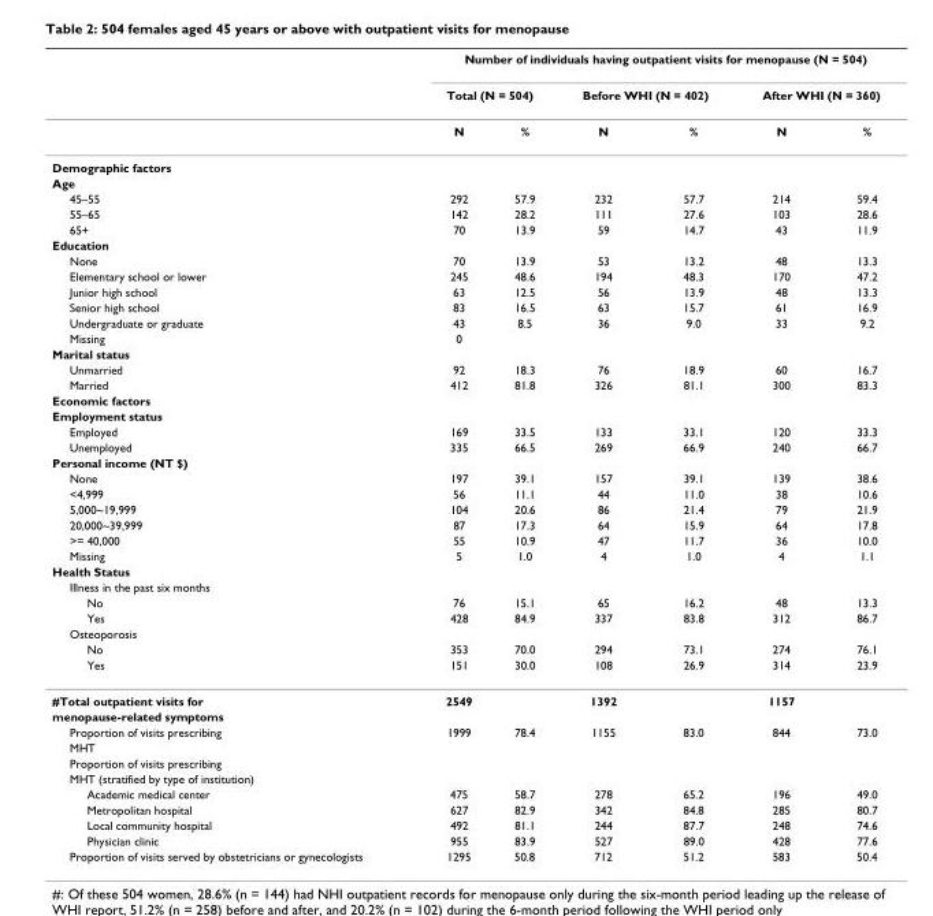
<table><thead><tr><td rowspan="3"></td><td colspan="6">Number of individuals having outpatient visits for menopause (N = 504)</td></tr><tr><td colspan="2">Total (N = 504)</td><td colspan="2">Before WHI (N = 402)</td><td colspan="2">After WHI (N = 360)</td></tr><tr><td>N</td><td>%</td><td>N</td><td>%</td><td>N</td><td>%</td></tr></thead><tbody><tr><td colspan="7">Demographic factors</td></tr><tr><td colspan="7">Age</td></tr><tr><td>45–55</td><td>292</td><td>57.9</td><td>232</td><td>57.7</td><td>214</td><td>59.4</td></tr><tr><td>55–65</td><td>142</td><td>28.2</td><td>111</td><td>27.6</td><td>103</td><td>28.6</td></tr><tr><td>65+</td><td>70</td><td>13.9</td><td>59</td><td>14.7</td><td>43</td><td>11.9</td></tr><tr><td colspan="7">Education</td></tr><tr><td>None</td><td>70</td><td>13.9</td><td>53</td><td>13.2</td><td>48</td><td>13.3</td></tr><tr><td>Elementary school or lower</td><td>245</td><td>48.6</td><td>194</td><td>48.3</td><td>170</td><td>47.2</td></tr><tr><td>Junior high school</td><td>63</td><td>12.5</td><td>56</td><td>13.9</td><td>48</td><td>13.3</td></tr><tr><td>Senior high school</td><td>83</td><td>16.5</td><td>63</td><td>15.7</td><td>61</td><td>16.9</td></tr><tr><td>Undergraduate or graduate</td><td>43</td><td>8.5</td><td>36</td><td>9.0</td><td>33</td><td>9.2</td></tr><tr><td>Missing</td><td>0</td><td></td><td></td><td></td><td></td><td></td></tr><tr><td colspan="7">Marital status</td></tr><tr><td>Unmarried</td><td>92</td><td>18.3</td><td>76</td><td>18.9</td><td>60</td><td>16.7</td></tr><tr><td>Married</td><td>412</td><td>81.8</td><td>326</td><td>81.1</td><td>300</td><td>83.3</td></tr><tr><td colspan="7">Economic factors</td></tr><tr><td colspan="7">Employment status</td></tr><tr><td>Employed</td><td>169</td><td>33.5</td><td>133</td><td>33.1</td><td>120</td><td>33.3</td></tr><tr><td>Unemployed</td><td>335</td><td>66.5</td><td>269</td><td>66.9</td><td>240</td><td>66.7</td></tr><tr><td colspan="7">Personal income (NT $)</td></tr><tr><td>None</td><td>197</td><td>39.1</td><td>157</td><td>39.1</td><td>139</td><td>38.6</td></tr><tr><td>&lt;4,999</td><td>56</td><td>11.1</td><td>44</td><td>11.0</td><td>38</td><td>10.6</td></tr><tr><td>5,000~19,999</td><td>104</td><td>20.6</td><td>86</td><td>21.4</td><td>79</td><td>21.9</td></tr><tr><td>20,000~39,999</td><td>87</td><td>17.3</td><td>64</td><td>15.9</td><td>64</td><td>17.8</td></tr><tr><td>&gt;= 40,000</td><td>55</td><td>10.9</td><td>47</td><td>11.7</td><td>36</td><td>10.0</td></tr><tr><td>Missing</td><td>5</td><td>1.0</td><td>4</td><td>1.0</td><td>4</td><td>1.1</td></tr><tr><td colspan="7">Health Status</td></tr><tr><td colspan="7">Illness in the past six months</td></tr><tr><td>No</td><td>76</td><td>15.1</td><td>65</td><td>16.2</td><td>48</td><td>13.3</td></tr><tr><td>Yes</td><td>428</td><td>84.9</td><td>337</td><td>83.8</td><td>312</td><td>86.7</td></tr><tr><td colspan="7">Osteoporosis</td></tr><tr><td>No</td><td>353</td><td>70.0</td><td>294</td><td>73.1</td><td>274</td><td>76.1</td></tr><tr><td>Yes</td><td>151</td><td>30.0</td><td>108</td><td>26.9</td><td>314</td><td>23.9</td></tr><tr><td>#Total outpatient visits for</td><td>2549</td><td></td><td>1392</td><td></td><td>1157</td><td></td></tr><tr><td colspan="7">menopause-related symptoms</td></tr><tr><td>Proportion of visits prescribing</td><td>1999</td><td>78.4</td><td>1155</td><td>83.0</td><td>844</td><td>73.0</td></tr><tr><td colspan="7">MHT</td></tr><tr><td colspan="7">Proportion of visits prescribing</td></tr><tr><td colspan="7">MHT (stratified by type of institution)</td></tr><tr><td>Academic medical center</td><td>475</td><td>58.7</td><td>278</td><td>65.2</td><td>196</td><td>49.0</td></tr><tr><td>Metropolitan hospital</td><td>627</td><td>82.9</td><td>342</td><td>84.8</td><td>285</td><td>80.7</td></tr><tr><td>Local community hospital</td><td>492</td><td>81.1</td><td>244</td><td>87.7</td><td>248</td><td>74.6</td></tr><tr><td>Physician clinic</td><td>955</td><td>83.9</td><td>527</td><td>89.0</td><td>428</td><td>77.6</td></tr><tr><td>Proportion of visits served by obstetricians or gynecologists</td><td>1295</td><td>50.8</td><td>712</td><td>51.2</td><td>583</td><td>50.4</td></tr></tbody></table>